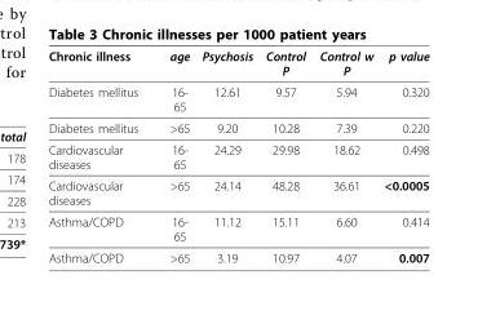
<table><thead><tr><td>Chronic illness</td><td>age</td><td>Psychosis</td><td>Control P</td><td>Control w P</td><td>p value</td></tr></thead><tbody><tr><td>Diabetes mellitus</td><td>16- 65</td><td>12.61</td><td>9.57</td><td>5.94</td><td>0.320</td></tr><tr><td>Diabetes mellitus</td><td>&gt;65</td><td>9.20</td><td>10.28</td><td>7.39</td><td>0.220</td></tr><tr><td>Cardiovascular diseases</td><td>16- 65</td><td>24.29</td><td>29.98</td><td>18.62</td><td>0.498</td></tr><tr><td>Cardiovascular diseases</td><td>&gt;65</td><td>24.14</td><td>48.28</td><td>36.61</td><td>&lt;0.0005</td></tr><tr><td>Asthma/COPD</td><td>16- 65</td><td>11.12</td><td>15.11</td><td>6.60</td><td>0.414</td></tr><tr><td>Asthma/COPD</td><td>&gt;65</td><td>3.19</td><td>10.97</td><td>4.07</td><td>0.007</td></tr></tbody></table>